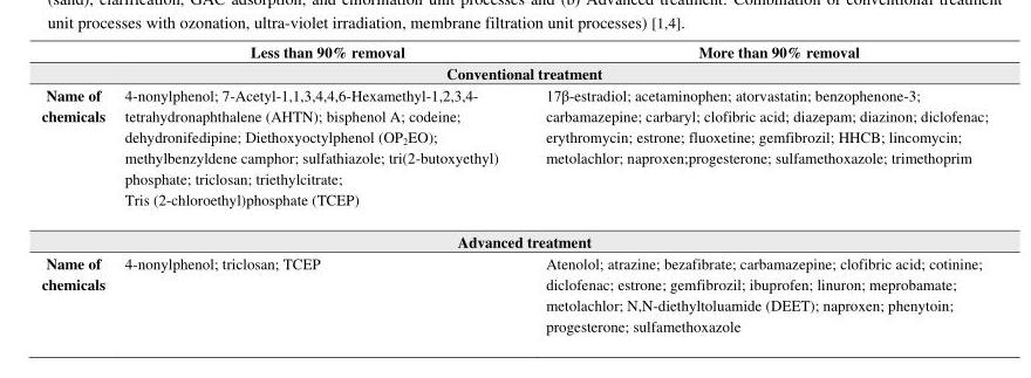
<table><thead><tr><td></td><td>Less than 90% removal</td><td>More than 90% removal</td></tr></thead><tbody><tr><td colspan="3">Conventional treatment</td></tr><tr><td>Name of chemicals</td><td>4-nonylphenol; 7-Acetyl-1,1,3,4,4,6-Hexamethyl-1,2,3,4- tetrahydronaphthalene (AHTN); bisphenol A; codeine; dehydronifedipine; Diethoxyoctylphenol (OP<sub>2</sub>EO); methylbenzyldene camphor; sulfathiazole; tri(2-butoxyethyl) phosphate; triclosan; triethylcitrate; Tris (2-chloroethyl)phosphate (TCEP)</td><td>17β-estradiol; acetaminophen; atorvastatin; benzophenone-3; carbamazepine; carbaryl; clofibric acid; diazepam; diazinon; diclofenac; erythromycin; estrone; fluoxetine; gemfibrozil; HHCB; lincomycin; metolachlor; naproxen;progesterone; sulfamethoxazole; trimethoprim</td></tr><tr><td colspan="3">Advanced treatment</td></tr><tr><td>Name of chemicals</td><td>4-nonylphenol; triclosan; TCEP</td><td>Atenolol; atrazine; bezafibrate; carbamazepine; clofibric acid; cotinine; diclofenac; estrone; gemfibrozil; ibuprofen; linuron; meprobamate; metolachlor; N,N-diethyltoluamide (DEET); naproxen; phenytoin; progesterone; sulfamethoxazole</td></tr></tbody></table>